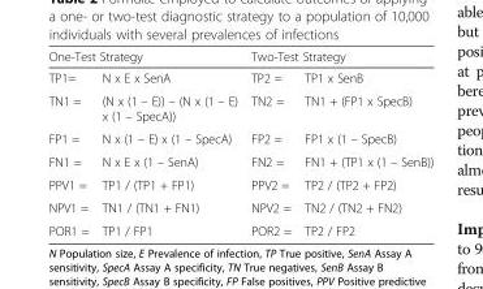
<table><thead><tr><td colspan="2">One-Test Strategy</td><td colspan="2">Two-Test Strategy</td></tr><tr><td>TP1=</td><td>N x E x SenA</td><td>TP2 =</td><td>TP1 x SenB</td></tr></thead><tbody><tr><td>TN1 =</td><td>(N x (1 – E)) – (N x (1 – E) x (1 – SpecA))</td><td>TN2 =</td><td>TN1 + (FP1 x SpecB)</td></tr><tr><td>FP1 =</td><td>N x (1 – E) x (1 – SpecA)</td><td>FP2 =</td><td>FP1 x (1 – SpecB)</td></tr><tr><td>FN1 =</td><td>N x E x (1 – SenA)</td><td>FN2 =</td><td>FN1 + (TP1 x (1 – SenB))</td></tr><tr><td>PPV1 =</td><td>TP1 / (TP1 + FP1)</td><td>PPV2 =</td><td>TP2 / (TP2 + FP2)</td></tr><tr><td>NPV1 =</td><td>TN1 / (TN1 + FN1)</td><td>NPV2 =</td><td>TN2 / (TN2 + FN2)</td></tr><tr><td>POR1 =</td><td>TP1 / FP1</td><td>POR2 =</td><td>TP2 / FP2</td></tr></tbody></table>